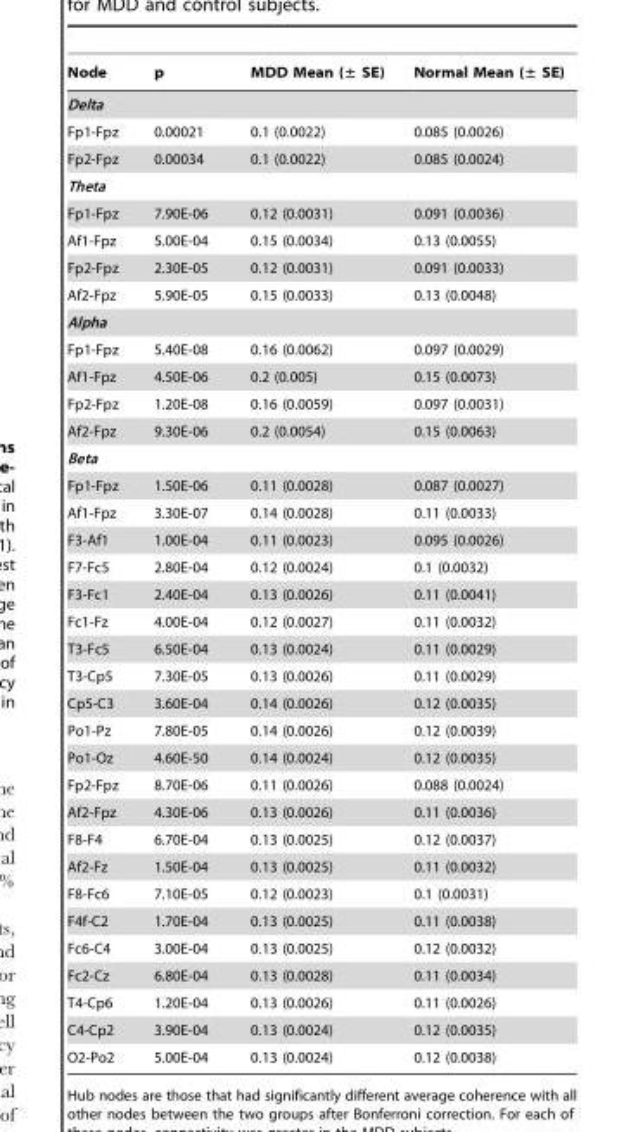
<table><thead><tr><td>Node</td><td>p</td><td>MDD Mean (± SE)</td><td>Normal Mean (± SE)</td></tr></thead><tbody><tr><td colspan="4">Delta</td></tr><tr><td>Fp1-Fpz</td><td>0.00021</td><td>0.1 (0.0022)</td><td>0.085 (0.0026)</td></tr><tr><td>Fp2-Fpz</td><td>0.00034</td><td>0.1 (0.0022)</td><td>0.085 (0.0024)</td></tr><tr><td colspan="4">Theta</td></tr><tr><td>Fp1-Fpz</td><td>7.90E-06</td><td>0.12 (0.0031)</td><td>0.091 (0.0036)</td></tr><tr><td>Af1-Fpz</td><td>5.00E-04</td><td>0.15 (0.0034)</td><td>0.13 (0.0055)</td></tr><tr><td>Fp2-Fpz</td><td>2.30E-05</td><td>0.12 (0.0031)</td><td>0.091 (0.0033)</td></tr><tr><td>Af2-Fpz</td><td>5.90E-05</td><td>0.15 (0.0033)</td><td>0.13 (0.0048)</td></tr><tr><td colspan="4">Alpha</td></tr><tr><td>Fp1-Fpz</td><td>5.40E-08</td><td>0.16 (0.0062)</td><td>0.097 (0.0029)</td></tr><tr><td>Af1-Fpz</td><td>4.50E-06</td><td>0.2 (0.005)</td><td>0.15 (0.0073)</td></tr><tr><td>Fp2-Fpz</td><td>1.20E-08</td><td>0.16 (0.0059)</td><td>0.097 (0.0031)</td></tr><tr><td>Af2-Fpz</td><td>9.30E-06</td><td>0.2 (0.0054)</td><td>0.15 (0.0063)</td></tr><tr><td colspan="4">Beta</td></tr><tr><td>Fp1-Fpz</td><td>1.50E-06</td><td>0.11 (0.0028)</td><td>0.087 (0.0027)</td></tr><tr><td>Af1-Fpz</td><td>3.30E-07</td><td>0.14 (0.0028)</td><td>0.11 (0.0033)</td></tr><tr><td>F3-Af1</td><td>1.00E-04</td><td>0.11 (0.0023)</td><td>0.095 (0.0026)</td></tr><tr><td>F7-Fc5</td><td>2.80E-04</td><td>0.12 (0.0024)</td><td>0.1 (0.0032)</td></tr><tr><td>F3-Fc1</td><td>2.40E-04</td><td>0.13 (0.0026)</td><td>0.11 (0.0041)</td></tr><tr><td>Fc1-Fz</td><td>4.00E-04</td><td>0.12 (0.0027)</td><td>0.11 (0.0032)</td></tr><tr><td>T3-Fc5</td><td>6.50E-04</td><td>0.13 (0.0024)</td><td>0.11 (0.0029)</td></tr><tr><td>T3-Cp5</td><td>7.30E-05</td><td>0.13 (0.0026)</td><td>0.11 (0.0029)</td></tr><tr><td>Cp5-C3</td><td>3.60E-04</td><td>0.14 (0.0026)</td><td>0.12 (0.0035)</td></tr><tr><td>Po1-Pz</td><td>7.80E-05</td><td>0.14 (0.0026)</td><td>0.12 (0.0039)</td></tr><tr><td>Po1-Oz</td><td>4.60E-50</td><td>0.14 (0.0024)</td><td>0.12 (0.0035)</td></tr><tr><td>Fp2-Fpz</td><td>8.70E-06</td><td>0.11 (0.0026)</td><td>0.088 (0.0024)</td></tr><tr><td>Af2-Fpz</td><td>4.30E-06</td><td>0.13 (0.0026)</td><td>0.11 (0.0036)</td></tr><tr><td>F8-F4</td><td>6.70E-04</td><td>0.13 (0.0025)</td><td>0.12 (0.0037)</td></tr><tr><td>Af2-Fz</td><td>1.50E-04</td><td>0.13 (0.0025)</td><td>0.11 (0.0032)</td></tr><tr><td>F8-Fc6</td><td>7.10E-05</td><td>0.12 (0.0023)</td><td>0.1 (0.0031)</td></tr><tr><td>F4f-C2</td><td>1.70E-04</td><td>0.13 (0.0025)</td><td>0.11 (0.0038)</td></tr><tr><td>Fc6-C4</td><td>3.00E-04</td><td>0.13 (0.0025)</td><td>0.12 (0.0032)</td></tr><tr><td>Fc2-Cz</td><td>6.80E-04</td><td>0.13 (0.0028)</td><td>0.11 (0.0034)</td></tr><tr><td>T4-Cp6</td><td>1.20E-04</td><td>0.13 (0.0026)</td><td>0.11 (0.0026)</td></tr><tr><td>C4-Cp2</td><td>3.90E-04</td><td>0.13 (0.0024)</td><td>0.12 (0.0035)</td></tr><tr><td>O2-Po2</td><td>5.00E-04</td><td>0.13 (0.0024)</td><td>0.12 (0.0038)</td></tr></tbody></table>